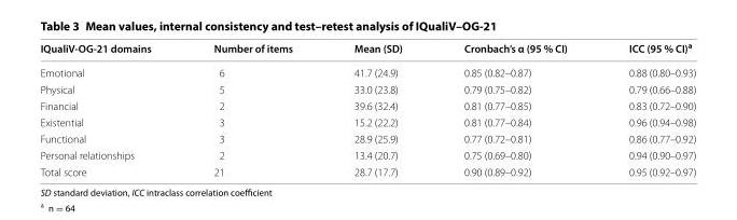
<table><thead><tr><td>IQualiV‑OG‑21 domains</td><td>Number of items</td><td>Mean (SD)</td><td>Cronbach’s α (95 % CI)</td><td>ICC (95 % CI)<sup>a</sup></td></tr></thead><tbody><tr><td>Emotional</td><td>6</td><td>41.7 (24.9)</td><td>0.85 (0.82–0.87)</td><td>0.88 (0.80–0.93)</td></tr><tr><td>Physical</td><td>5</td><td>33.0 (23.8)</td><td>0.79 (0.75–0.82)</td><td>0.79 (0.66–0.88)</td></tr><tr><td>Financial</td><td>2</td><td>39.6 (32.4)</td><td>0.81 (0.77–0.85)</td><td>0.83 (0.72–0.90)</td></tr><tr><td>Existential</td><td>3</td><td>15.2 (22.2)</td><td>0.81 (0.77–0.84)</td><td>0.96 (0.94–0.98)</td></tr><tr><td>Functional</td><td>3</td><td>28.9 (25.9)</td><td>0.77 (0.72–0.81)</td><td>0.86 (0.77–0.92)</td></tr><tr><td>Personal relationships</td><td>2</td><td>13.4 (20.7)</td><td>0.75 (0.69–0.80)</td><td>0.94 (0.90–0.97)</td></tr><tr><td>Total score</td><td>21</td><td>28.7 (17.7)</td><td>0.90 (0.89–0.92)</td><td>0.95 (0.92–0.97)</td></tr></tbody></table>